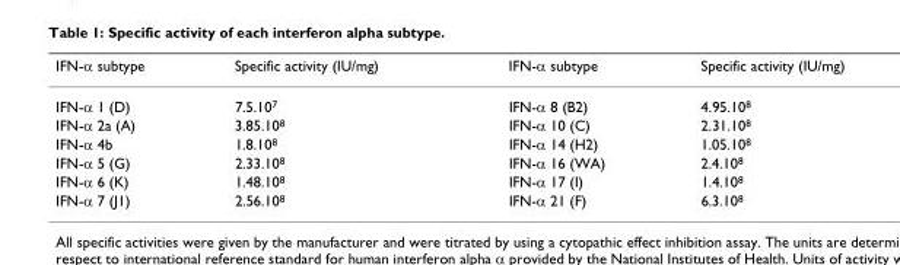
<table><thead><tr><td>IFN-α subtype</td><td>Specific activity (IU/mg)</td><td>IFN-α subtype</td><td>Specific activity (IU/mg)</td></tr></thead><tbody><tr><td>IFN-α 1 (D)</td><td>7.5.10<sup>7</sup></td><td>IFN-α 8 (B2)</td><td>4.95.10<sup>8</sup></td></tr><tr><td>IFN-α 2a (A)</td><td>3.85.10<sup>8</sup></td><td>IFN-α 10 (C)</td><td>2.31.10<sup>8</sup></td></tr><tr><td>IFN-α 4b</td><td>1.8.10<sup>8</sup></td><td>IFN-α 14 (H2)</td><td>1.05.10<sup>8</sup></td></tr><tr><td>IFN-α 5 (G)</td><td>2.33.10<sup>8</sup></td><td>IFN-α 16 (WA)</td><td>2.4.10<sup>8</sup></td></tr><tr><td>IFN-α 6 (K)</td><td>1.48.10<sup>8</sup></td><td>IFN-α 17 (I)</td><td>1.4.10<sup>8</sup></td></tr><tr><td>IFN-α 7 (J1)</td><td>2.56.10<sup>8</sup></td><td>IFN-α 21 (F)</td><td>6.3.10<sup>8</sup></td></tr></tbody></table>